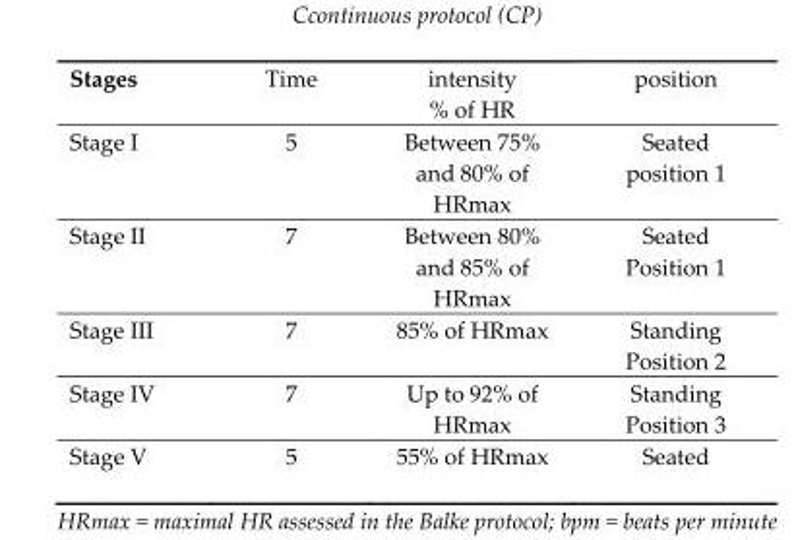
<table><thead><tr><td>Stages</td><td>Time</td><td>intensity % of HR</td><td>position</td></tr></thead><tbody><tr><td>Stage I</td><td>5</td><td>Between 75% and 80% of HRmax</td><td>Seated position 1</td></tr><tr><td>Stage II</td><td>7</td><td>Between 80% and 85% of HRmax</td><td>Seated Position 1</td></tr><tr><td>Stage III</td><td>7</td><td>85% of HRmax</td><td>Standing Position 2</td></tr><tr><td>Stage IV</td><td>7</td><td>Up to 92% of HRmax</td><td>Standing Position 3</td></tr><tr><td>Stage V</td><td>5</td><td>55% of HRmax</td><td>Seated</td></tr></tbody></table>